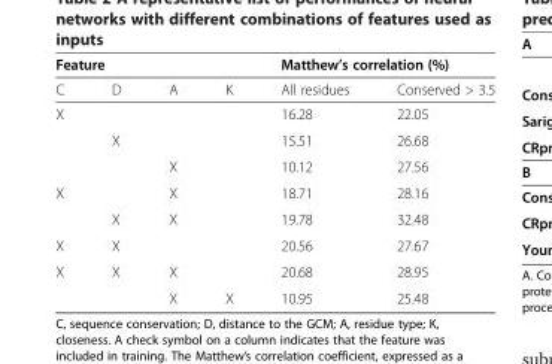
<table><thead><tr><td colspan="4">Feature</td><td colspan="2">Matthew’s correlation (%)</td></tr><tr><td>C</td><td>D</td><td>A</td><td>K</td><td>All residues</td><td>Conserved &gt; 3.5</td></tr></thead><tbody><tr><td rowspan="3">X</td><td></td><td></td><td></td><td>16.28</td><td>22.05</td></tr><tr><td>X</td><td></td><td></td><td>15.51</td><td>26.68</td></tr><tr><td></td><td>X</td><td></td><td>10.12</td><td>27.56</td></tr><tr><td rowspan="2">X</td><td></td><td>X</td><td></td><td>18.71</td><td>28.16</td></tr><tr><td>X</td><td>X</td><td></td><td>19.78</td><td>32.48</td></tr><tr><td>X</td><td>X</td><td></td><td></td><td>20.56</td><td>27.67</td></tr><tr><td rowspan="2">X</td><td>X</td><td>X</td><td></td><td>20.68</td><td>28.95</td></tr><tr><td></td><td>X</td><td>X</td><td>10.95</td><td>25.48</td></tr></tbody></table>